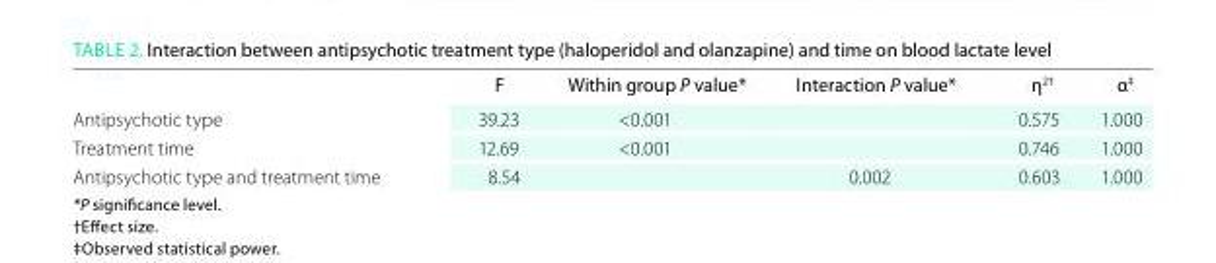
<table><thead><tr><td></td><td>F</td><td>Within group P value*</td><td>Interaction P value*</td><td>η<sup>2†</sup></td><td>α<sup>‡</sup></td></tr></thead><tbody><tr><td>Antipsychotic type</td><td>39.23</td><td>&lt;0.001</td><td></td><td>0.575</td><td>1.000</td></tr><tr><td>Treatment time</td><td>12.69</td><td>&lt;0.001</td><td></td><td>0.746</td><td>1.000</td></tr><tr><td>Antipsychotic type and treatment time</td><td>8.54</td><td></td><td>0.002</td><td>0.603</td><td>1.000</td></tr></tbody></table>